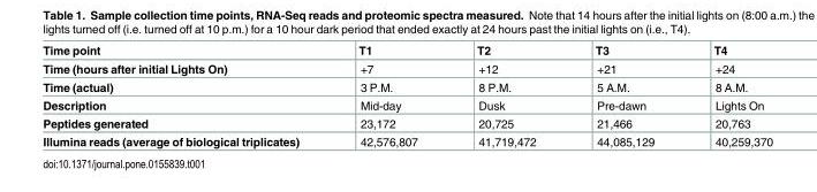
<table><thead><tr><td>Time point</td><td>T1</td><td>T2</td><td>T3</td><td>T4</td></tr></thead><tbody><tr><td>Time (hours after initial Lights On)</td><td>+7</td><td>+12</td><td>+21</td><td>+24</td></tr><tr><td>Time (actual)</td><td>3 P.M.</td><td>8 P.M.</td><td>5 A.M.</td><td>8 A.M.</td></tr><tr><td>Description</td><td>Mid-day</td><td>Dusk</td><td>Pre-dawn</td><td>Lights On</td></tr><tr><td>Peptides generated</td><td>23,172</td><td>20,725</td><td>21,466</td><td>20,763</td></tr><tr><td>Illumina reads (average of biological triplicates)</td><td>42,576,807</td><td>41,719,472</td><td>44,085,129</td><td>40,259,370</td></tr></tbody></table>